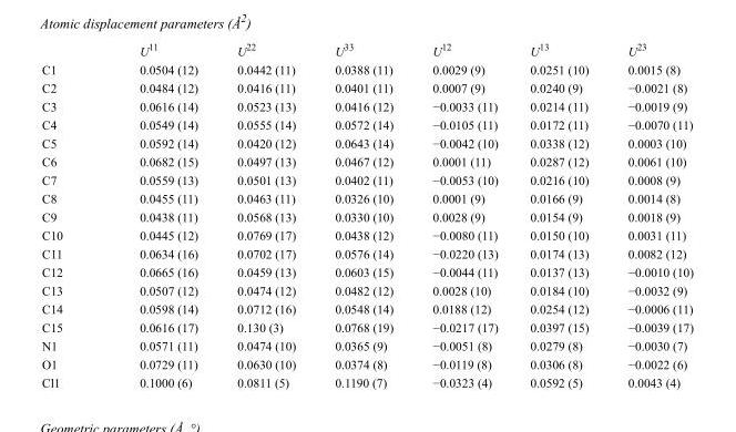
<table><thead><tr><td></td><td>U<sup>11</sup></td><td>U<sup>22</sup></td><td>U<sup>33</sup></td><td>U<sup>12</sup></td><td>U<sup>13</sup></td><td>U<sup>23</sup></td></tr></thead><tbody><tr><td>C1</td><td>0.0504 (12)</td><td>0.0442 (11)</td><td>0.0388 (11)</td><td>0.0029 (9)</td><td>0.0251 (10)</td><td>0.0015 (8)</td></tr><tr><td>C2</td><td>0.0484 (12)</td><td>0.0416 (11)</td><td>0.0401 (11)</td><td>0.0007 (9)</td><td>0.0240 (9)</td><td>−0.0021 (8)</td></tr><tr><td>C3</td><td>0.0616 (14)</td><td>0.0523 (13)</td><td>0.0416 (12)</td><td>−0.0033 (11)</td><td>0.0214 (11)</td><td>−0.0019 (9)</td></tr><tr><td>C4</td><td>0.0549 (14)</td><td>0.0555 (14)</td><td>0.0572 (14)</td><td>−0.0105 (11)</td><td>0.0172 (11)</td><td>−0.0070 (11)</td></tr><tr><td>C5</td><td>0.0592 (14)</td><td>0.0420 (12)</td><td>0.0643 (14)</td><td>−0.0042 (10)</td><td>0.0338 (12)</td><td>0.0003 (10)</td></tr><tr><td>C6</td><td>0.0682 (15)</td><td>0.0497 (13)</td><td>0.0467 (12)</td><td>0.0001 (11)</td><td>0.0287 (12)</td><td>0.0061 (10)</td></tr><tr><td>C7</td><td>0.0559 (13)</td><td>0.0501 (13)</td><td>0.0402 (11)</td><td>−0.0053 (10)</td><td>0.0216 (10)</td><td>0.0008 (9)</td></tr><tr><td>C8</td><td>0.0455 (11)</td><td>0.0463 (11)</td><td>0.0326 (10)</td><td>0.0001 (9)</td><td>0.0166 (9)</td><td>0.0014 (8)</td></tr><tr><td>C9</td><td>0.0438 (11)</td><td>0.0568 (13)</td><td>0.0330 (10)</td><td>0.0028 (9)</td><td>0.0154 (9)</td><td>0.0018 (9)</td></tr><tr><td>C10</td><td>0.0445 (12)</td><td>0.0769 (17)</td><td>0.0438 (12)</td><td>−0.0080 (11)</td><td>0.0150 (10)</td><td>0.0031 (11)</td></tr><tr><td>C11</td><td>0.0634 (16)</td><td>0.0702 (17)</td><td>0.0576 (14)</td><td>−0.0220 (13)</td><td>0.0174 (13)</td><td>0.0082 (12)</td></tr><tr><td>C12</td><td>0.0665 (16)</td><td>0.0459 (13)</td><td>0.0603 (15)</td><td>−0.0044 (11)</td><td>0.0137 (13)</td><td>−0.0010 (10)</td></tr><tr><td>C13</td><td>0.0507 (12)</td><td>0.0474 (12)</td><td>0.0482 (12)</td><td>0.0028 (10)</td><td>0.0184 (10)</td><td>−0.0032 (9)</td></tr><tr><td>C14</td><td>0.0598 (14)</td><td>0.0712 (16)</td><td>0.0548 (14)</td><td>0.0188 (12)</td><td>0.0254 (12)</td><td>−0.0006 (11)</td></tr><tr><td>C15</td><td>0.0616 (17)</td><td>0.130 (3)</td><td>0.0768 (19)</td><td>−0.0217 (17)</td><td>0.0397 (15)</td><td>−0.0039 (17)</td></tr><tr><td>N1</td><td>0.0571 (11)</td><td>0.0474 (10)</td><td>0.0365 (9)</td><td>−0.0051 (8)</td><td>0.0279 (8)</td><td>−0.0030 (7)</td></tr><tr><td>O1</td><td>0.0729 (11)</td><td>0.0630 (10)</td><td>0.0374 (8)</td><td>−0.0119 (8)</td><td>0.0306 (8)</td><td>−0.0022 (6)</td></tr><tr><td>Cl1</td><td>0.1000 (6)</td><td>0.0811 (5)</td><td>0.1190 (7)</td><td>−0.0323 (4)</td><td>0.0592 (5)</td><td>0.0043 (4)</td></tr></tbody></table>